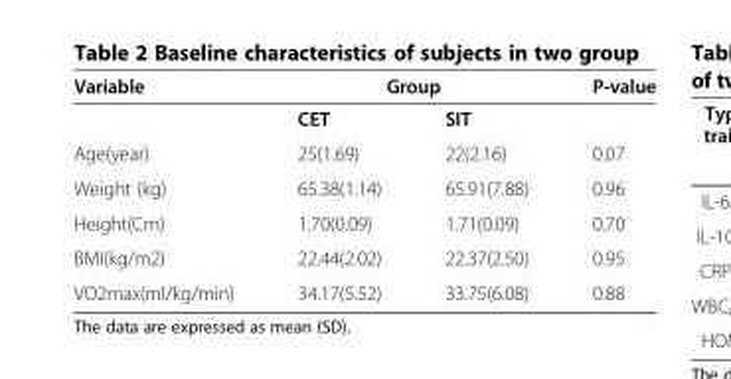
<table><thead><tr><td rowspan="2">Variable</td><td colspan="2">Group</td><td rowspan="2">P-value</td></tr><tr><td>CET</td><td>SIT</td></tr></thead><tbody><tr><td>Age(year)</td><td>25(1.69)</td><td>22(2.16)</td><td>0.07</td></tr><tr><td>Weight (kg)</td><td>65.38(1.14)</td><td>65.91(7.88)</td><td>0.96</td></tr><tr><td>Height(Cm)</td><td>1.70(0.09)</td><td>1.71(0.09)</td><td>0.70</td></tr><tr><td>BMI(kg/m2)</td><td>22.44(2.02)</td><td>22.37(2.50)</td><td>0.95</td></tr><tr><td>VO2max(ml/kg/min)</td><td>34.17(5.52)</td><td>33.75(6.08)</td><td>0.88</td></tr></tbody></table>